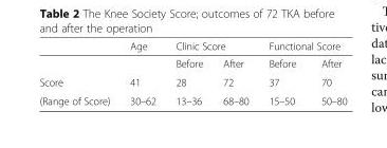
<table><thead><tr><td rowspan="2"></td><td rowspan="2">Age</td><td colspan="2">Clinic Score</td><td colspan="2">Functional Score</td></tr><tr><td>Before</td><td>After</td><td>Before</td><td>After</td></tr></thead><tbody><tr><td>Score</td><td>41</td><td>28</td><td>72</td><td>37</td><td>70</td></tr><tr><td>(Range of Score)</td><td>30–62</td><td>13–36</td><td>68–80</td><td>15–50</td><td>50–80</td></tr></tbody></table>